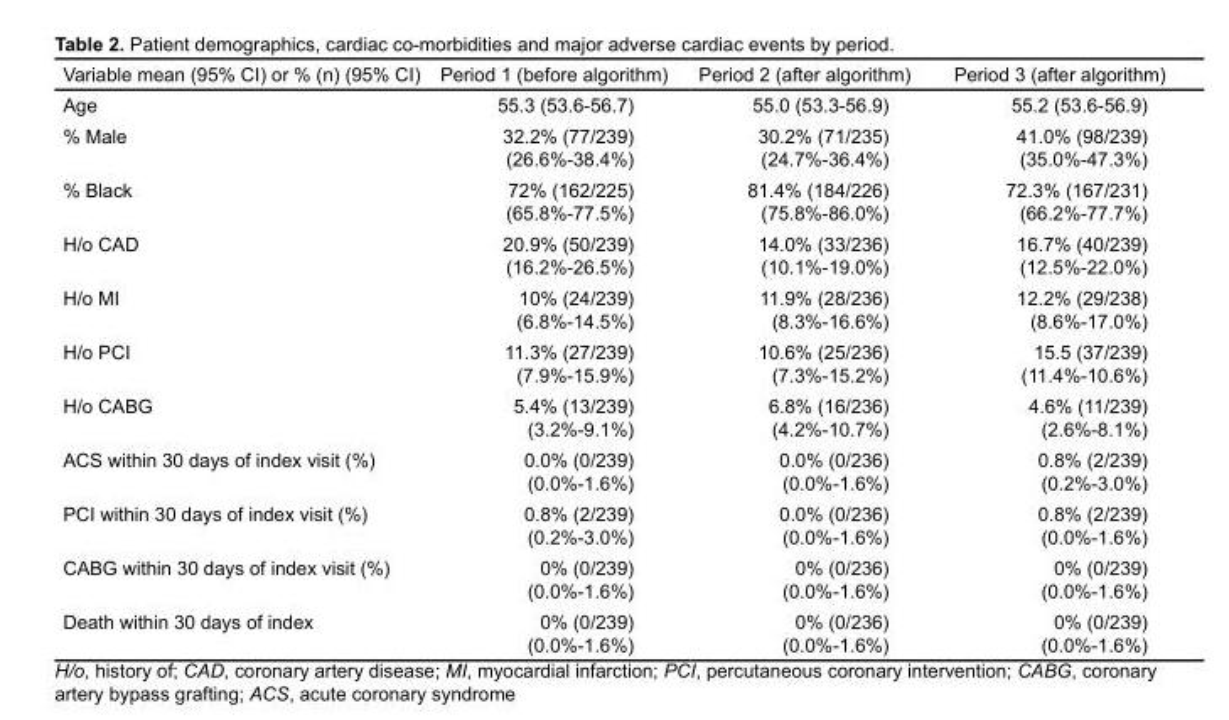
<table><thead><tr><td>Variable mean (95% CI) or % (n) (95% CI)</td><td>Period 1 (before algorithm)</td><td>Period 2 (after algorithm)</td><td>Period 3 (after algorithm)</td></tr></thead><tbody><tr><td>Age</td><td>55.3 (53.6-56.7)</td><td>55.0 (53.3-56.9)</td><td>55.2 (53.6-56.9)</td></tr><tr><td>% Male</td><td>32.2% (77/239) (26.6%-38.4%)</td><td>30.2% (71/235) (24.7%-36.4%)</td><td>41.0% (98/239) (35.0%-47.3%)</td></tr><tr><td>% Black</td><td>72% (162/225) (65.8%-77.5%)</td><td>81.4% (184/226) (75.8%-86.0%)</td><td>72.3% (167/231) (66.2%-77.7%)</td></tr><tr><td>H/o CAD</td><td>20.9% (50/239) (16.2%-26.5%)</td><td>14.0% (33/236) (10.1%-19.0%)</td><td>16.7% (40/239) (12.5%-22.0%)</td></tr><tr><td>H/o MI</td><td>10% (24/239) (6.8%-14.5%)</td><td>11.9% (28/236) (8.3%-16.6%)</td><td>12.2% (29/238) (8.6%-17.0%)</td></tr><tr><td>H/o PCI</td><td>11.3% (27/239) (7.9%-15.9%)</td><td>10.6% (25/236) (7.3%-15.2%)</td><td>15.5 (37/239) (11.4%-10.6%)</td></tr><tr><td>H/o CABG</td><td>5.4% (13/239) (3.2%-9.1%)</td><td>6.8% (16/236) (4.2%-10.7%)</td><td>4.6% (11/239) (2.6%-8.1%)</td></tr><tr><td>ACS within 30 days of index visit (%)</td><td>0.0% (0/239) (0.0%-1.6%)</td><td>0.0% (0/236) (0.0%-1.6%)</td><td>0.8% (2/239) (0.2%-3.0%)</td></tr><tr><td>PCI within 30 days of index visit (%)</td><td>0.8% (2/239) (0.2%-3.0%)</td><td>0.0% (0/236) (0.0%-1.6%)</td><td>0.8% (2/239) (0.0%-1.6%)</td></tr><tr><td>CABG within 30 days of index visit (%)</td><td>0% (0/239) (0.0%-1.6%)</td><td>0% (0/236) (0.0%-1.6%)</td><td>0% (0/239) (0.0%-1.6%)</td></tr><tr><td>Death within 30 days of index</td><td>0% (0/239) (0.0%-1.6%)</td><td>0% (0/236) (0.0%-1.6%)</td><td>0% (0/239) (0.0%-1.6%)</td></tr></tbody></table>